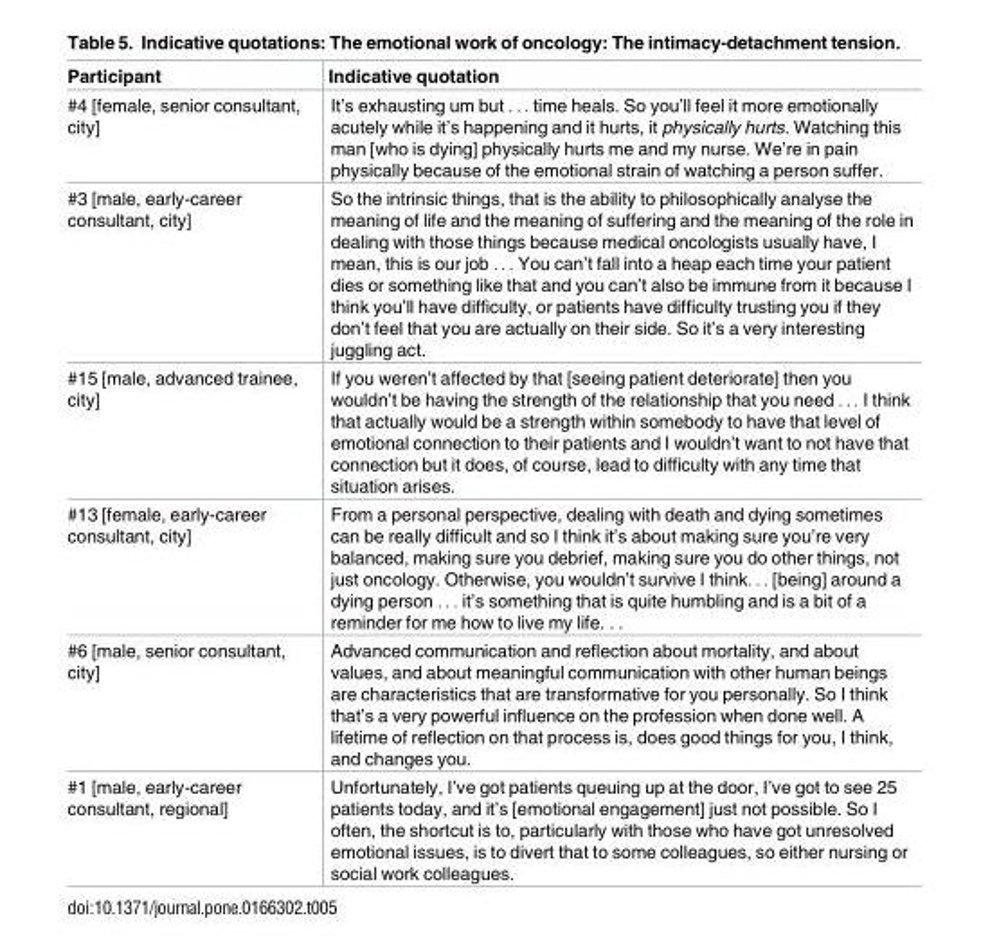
<table><thead><tr><td>Participant</td><td>Indicative quotation</td></tr></thead><tbody><tr><td>#4 [female, senior consultant, city]</td><td>It’s exhausting um but . . . time heals. So you’ll feel it more emotionally acutely while it’s happening and it hurts, it physically hurts. Watching this man [who is dying] physically hurts me and my nurse. We’re in pain physically because of the emotional strain of watching a person suffer.</td></tr><tr><td>#3 [male, early-career consultant, city]</td><td>So the intrinsic things, that is the ability to philosophically analyse the meaning of life and the meaning of suffering and the meaning of the role in dealing with those things because medical oncologists usually have, I mean, this is our job . . . You can’t fall into a heap each time your patient dies or something like that and you can’t also be immune from it because I think you’ll have difficulty, or patients have difficulty trusting you if they don’t feel that you are actually on their side. So it’s a very interesting juggling act.</td></tr><tr><td>#15 [male, advanced trainee, city]</td><td>If you weren’t affected by that [seeing patient deteriorate] then you wouldn’t be having the strength of the relationship that you need . . . I think that actually would be a strength within somebody to have that level of emotional connection to their patients and I wouldn’t want to not have that connection but it does, of course, lead to difficulty with any time that situation arises.</td></tr><tr><td>#13 [female, early-career consultant, city]</td><td>From a personal perspective, dealing with death and dying sometimes can be really difficult and so I think it’s about making sure you’re very balanced, making sure you debrief, making sure you do other things, not just oncology. Otherwise, you wouldn’t survive I think. . . [being] around a dying person . . . it’s something that is quite humbling and is a bit of a reminder for me how to live my life. . .</td></tr><tr><td>#6 [male, senior consultant, city]</td><td>Advanced communication and reflection about mortality, and about values, and about meaningful communication with other human beings are characteristics that are transformative for you personally. So I think that’s a very powerful influence on the profession when done well. A lifetime of reflection on that process is, does good things for you, I think, and changes you.</td></tr><tr><td>#1 [male, early-career consultant, regional]</td><td>Unfortunately, I’ve got patients queuing up at the door, I’ve got to see 25 patients today, and it’s [emotional engagement] just not possible. So I often, the shortcut is to, particularly with those who have got unresolved emotional issues, is to divert that to some colleagues, so either nursing or social work colleagues.</td></tr></tbody></table>